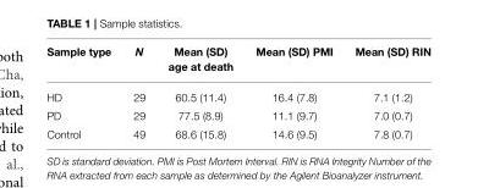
<table><thead><tr><td>Sample type</td><td>N</td><td>Mean (SD) age at death</td><td>Mean (SD) PMI</td><td>Mean (SD) RIN</td></tr></thead><tbody><tr><td>HD</td><td>29</td><td>60.5 (11.4)</td><td>16.4 (7.8)</td><td>7.1 (1.2)</td></tr><tr><td>PD</td><td>29</td><td>77.5 (8.9)</td><td>11.1 (9.7)</td><td>7.0 (0.7)</td></tr><tr><td>Control</td><td>49</td><td>68.6 (15.8)</td><td>14.6 (9.5)</td><td>7.8 (0.7)</td></tr></tbody></table>